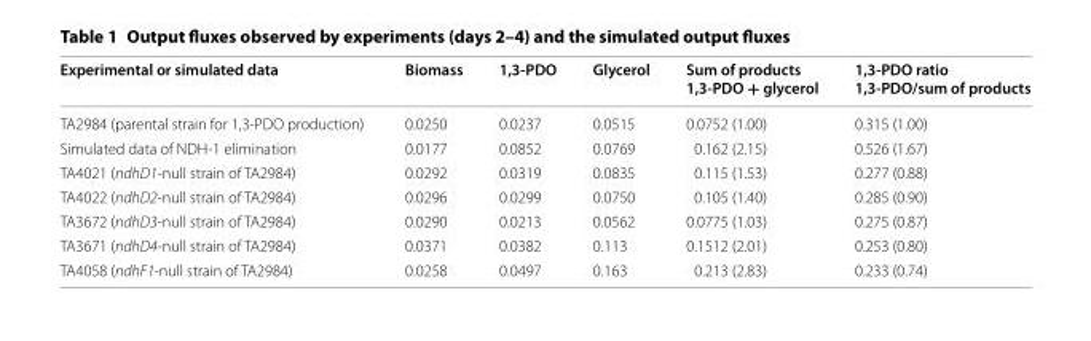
<table><thead><tr><td>Experimental or simulated data</td><td>Biomass</td><td>1,3‑PDO</td><td>Glycerol</td><td>Sum of products 1,3‑PDO + glycerol</td><td>1,3‑PDO ratio 1,3‑PDO/sum of products</td></tr></thead><tbody><tr><td>TA2984 (parental strain for 1,3-PDO production)</td><td>0.0250</td><td>0.0237</td><td>0.0515</td><td>0.0752 (1.00)</td><td>0.315 (1.00)</td></tr><tr><td>Simulated data of NDH-1 elimination</td><td>0.0177</td><td>0.0852</td><td>0.0769</td><td>0.162 (2.15)</td><td>0.526 (1.67)</td></tr><tr><td>TA4021 (ndhD1-null strain of TA2984)</td><td>0.0292</td><td>0.0319</td><td>0.0835</td><td>0.115 (1.53)</td><td>0.277 (0.88)</td></tr><tr><td>TA4022 (ndhD2-null strain of TA2984)</td><td>0.0296</td><td>0.0299</td><td>0.0750</td><td>0.105 (1.40)</td><td>0.285 (0.90)</td></tr><tr><td>TA3672 (ndhD3-null strain of TA2984)</td><td>0.0290</td><td>0.0213</td><td>0.0562</td><td>0.0775 (1.03)</td><td>0.275 (0.87)</td></tr><tr><td>TA3671 (ndhD4-null strain of TA2984)</td><td>0.0371</td><td>0.0382</td><td>0.113</td><td>0.1512 (2.01)</td><td>0.253 (0.80)</td></tr><tr><td>TA4058 (ndhF1-null strain of TA2984)</td><td>0.0258</td><td>0.0497</td><td>0.163</td><td>0.213 (2.83)</td><td>0.233 (0.74)</td></tr></tbody></table>